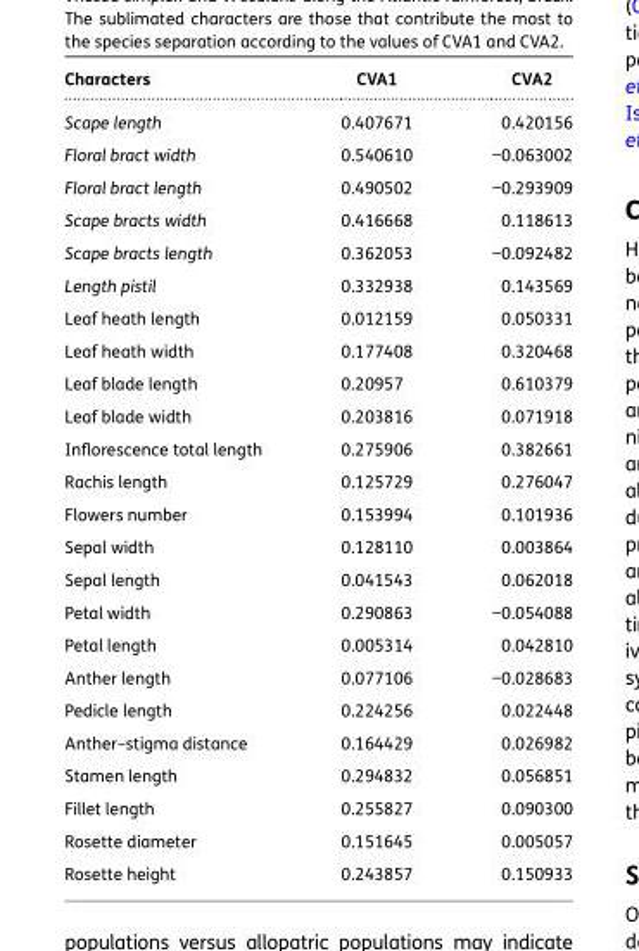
<table><thead><tr><td>Characters</td><td>CVA1</td><td>CVA2</td></tr></thead><tbody><tr><td>Scape length</td><td>0.407671</td><td>0.420156</td></tr><tr><td>Floral bract width</td><td>0.540610</td><td>−0.063002</td></tr><tr><td>Floral bract length</td><td>0.490502</td><td>−0.293909</td></tr><tr><td>Scape bracts width</td><td>0.416668</td><td>0.118613</td></tr><tr><td>Scape bracts length</td><td>0.362053</td><td>−0.092482</td></tr><tr><td>Length pistil</td><td>0.332938</td><td>0.143569</td></tr><tr><td>Leaf heath length</td><td>0.012159</td><td>0.050331</td></tr><tr><td>Leaf heath width</td><td>0.177408</td><td>0.320468</td></tr><tr><td>Leaf blade length</td><td>0.20957</td><td>0.610379</td></tr><tr><td>Leaf blade width</td><td>0.203816</td><td>0.071918</td></tr><tr><td>Inflorescence total length</td><td>0.275906</td><td>0.382661</td></tr><tr><td>Rachis length</td><td>0.125729</td><td>0.276047</td></tr><tr><td>Flowers number</td><td>0.153994</td><td>0.101936</td></tr><tr><td>Sepal width</td><td>0.128110</td><td>0.003864</td></tr><tr><td>Sepal length</td><td>0.041543</td><td>0.062018</td></tr><tr><td>Petal width</td><td>0.290863</td><td>−0.054088</td></tr><tr><td>Petal length</td><td>0.005314</td><td>0.042810</td></tr><tr><td>Anther length</td><td>0.077106</td><td>−0.028683</td></tr><tr><td>Pedicle length</td><td>0.224256</td><td>0.022448</td></tr><tr><td>Anther–stigma distance</td><td>0.164429</td><td>0.026982</td></tr><tr><td>Stamen length</td><td>0.294832</td><td>0.056851</td></tr><tr><td>Fillet length</td><td>0.255827</td><td>0.090300</td></tr><tr><td>Rosette diameter</td><td>0.151645</td><td>0.005057</td></tr><tr><td>Rosette height</td><td>0.243857</td><td>0.150933</td></tr></tbody></table>